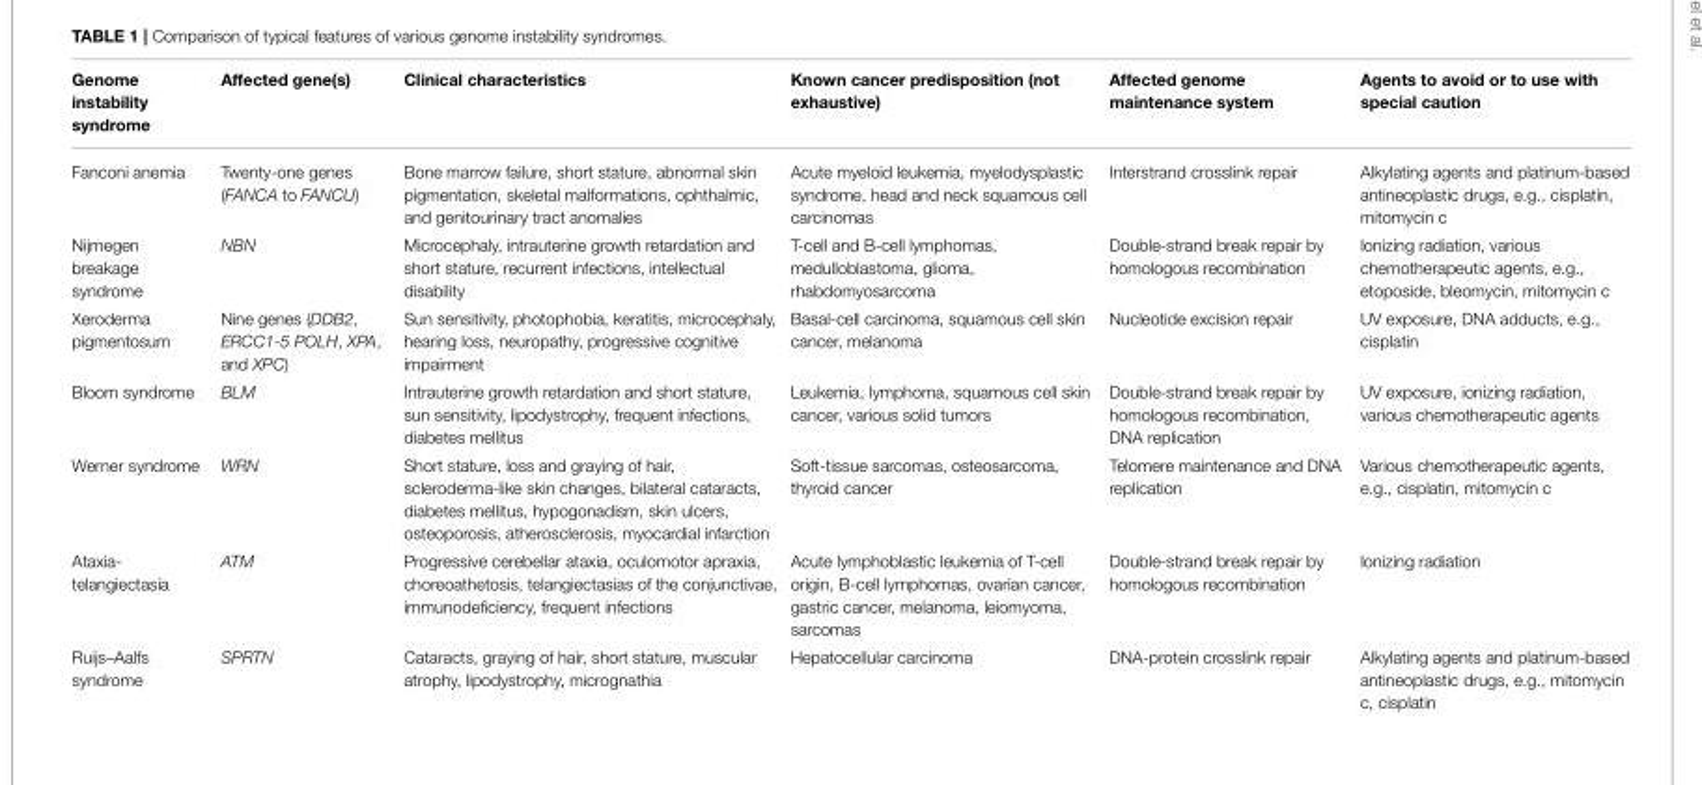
<table><thead><tr><td>Genome instability syndrome</td><td>Affected gene(s)</td><td>Clinical characteristics</td><td>Known cancer predisposition (not exhaustive)</td><td>Affected genome maintenance system</td><td>Agents to avoid or to use with special caution</td></tr></thead><tbody><tr><td>Fanconi anemia</td><td>Twenty-one genes (FANCA to FANCU)</td><td>Bone marrow failure, short stature, abnormal skin pigmentation, skeletal malformations, ophthalmic, and genitourinary tract anomalies</td><td>Acute myeloid leukemia, myelodysplastic syndrome, head and neck squamous cell carcinomas</td><td>Interstrand crosslink repair</td><td>Alkylating agents and platinum-based antineoplastic drugs, e.g., cisplatin, mitomycin c</td></tr><tr><td>Nijmegen breakage syndrome</td><td>NBN</td><td>Microcephaly, intrauterine growth retardation and short stature, recurrent infections, intellectual disability</td><td>T-cell and B-cell lymphomas, medulloblastoma, glioma, rhabdomyosarcoma</td><td>Double-strand break repair by homologous recombination</td><td>Ionizing radiation, various chemotherapeutic agents, e.g., etoposide, bleomycin, mitomycin c</td></tr><tr><td>Xeroderma pigmentosum</td><td>Nine genes (DDB2, ERCC1-5 POLH, XPA, and XPC)</td><td>Sun sensitivity, photophobia, keratitis, microcephaly, hearing loss, neuropathy, progressive cognitive impairment</td><td>Basal-cell carcinoma, squamous cell skin cancer, melanoma</td><td>Nucleotide excision repair</td><td>UV exposure, DNA adducts, e.g., cisplatin</td></tr><tr><td>Bloom syndrome</td><td>BLM</td><td>Intrauterine growth retardation and short stature, sun sensitivity, lipodystrophy, frequent infections, diabetes mellitus</td><td>Leukemia, lymphoma, squamous cell skin cancer, various solid tumors</td><td>Double-strand break repair by homologous recombination, DNA replication</td><td>UV exposure, ionizing radiation, various chemotherapeutic agents</td></tr><tr><td>Werner syndrome</td><td>WRN</td><td>Short stature, loss and graying of hair, scleroderma-like skin changes, bilateral cataracts, diabetes mellitus, hypogonadism, skin ulcers, osteoporosis, atherosclerosis, myocardial infarction</td><td>Soft-tissue sarcomas, osteosarcoma, thyroid cancer</td><td>Telomere maintenance and DNA replication</td><td>Various chemotherapeutic agents, e.g., cisplatin, mitomycin c</td></tr><tr><td>Ataxia- telangiectasia</td><td>ATM</td><td>Progressive cerebellar ataxia, oculomotor apraxia, choreoathetosis, telangiectasias of the conjunctivae, immunodeficiency, frequent infections</td><td>Acute lymphoblastic leukemia of T-cell origin, B-cell lymphomas, ovarian cancer, gastric cancer, melanoma, leiomyoma, sarcomas</td><td>Double-strand break repair by homologous recombination</td><td>Ionizing radiation</td></tr><tr><td>Ruijs–Aalfs syndrome</td><td>SPRTN</td><td>Cataracts, graying of hair, short stature, muscular atrophy, lipodystrophy, micrognathia</td><td>Hepatocellular carcinoma</td><td>DNA-protein crosslink repair</td><td>Alkylating agents and platinum-based antineoplastic drugs, e.g., mitomycin c, cisplatin</td></tr></tbody></table>